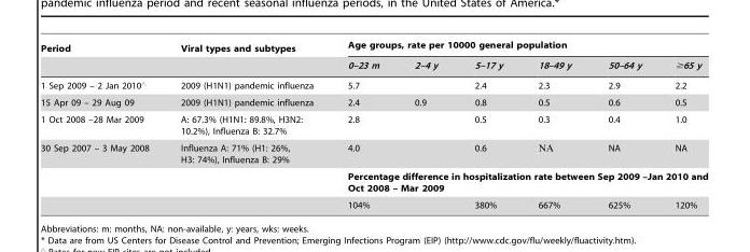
<table><thead><tr><td rowspan="2">Period</td><td rowspan="2">Viral types and subtypes</td><td colspan="6">Age groups, rate per 10000 general population</td></tr><tr><td>0–23 m</td><td>2–4 y</td><td>5–17 y</td><td>18–49 y</td><td>50–64 y</td><td>≥65 y</td></tr></thead><tbody><tr><td>1 Sep 2009 – 2 Jan 2010‘</td><td>2009 (H1N1) pandemic influenza</td><td colspan="2">5.7</td><td>2.4</td><td>2.3</td><td>2.9</td><td>2.2</td></tr><tr><td>15 Apr 09 – 29 Aug 09</td><td>2009 (H1N1) pandemic influenza</td><td>2.4</td><td>0.9</td><td>0.8</td><td>0.5</td><td>0.6</td><td>0.5</td></tr><tr><td>1 Oct 2008 –28 Mar 2009</td><td>A: 67.3% (H1N1: 89.8%, H3N2: 10.2%), Influenza B: 32.7%</td><td colspan="2">2.8</td><td>0.5</td><td>0.3</td><td>0.4</td><td>1.0</td></tr><tr><td>30 Sep 2007 – 3 May 2008</td><td>Influenza A: 71% (H1: 26%, H3: 74%), Influenza B: 29%</td><td colspan="2">4.0</td><td>0.6</td><td>NA</td><td>NA</td><td>NA</td></tr><tr><td colspan="2"></td><td colspan="6">Percentage difference in hospitalization rate between Sep 2009 –Jan 2010 and Oct 2008 – Mar 2009</td></tr><tr><td colspan="2"></td><td colspan="2">104%</td><td>380%</td><td>667%</td><td>625%</td><td>120%</td></tr></tbody></table>